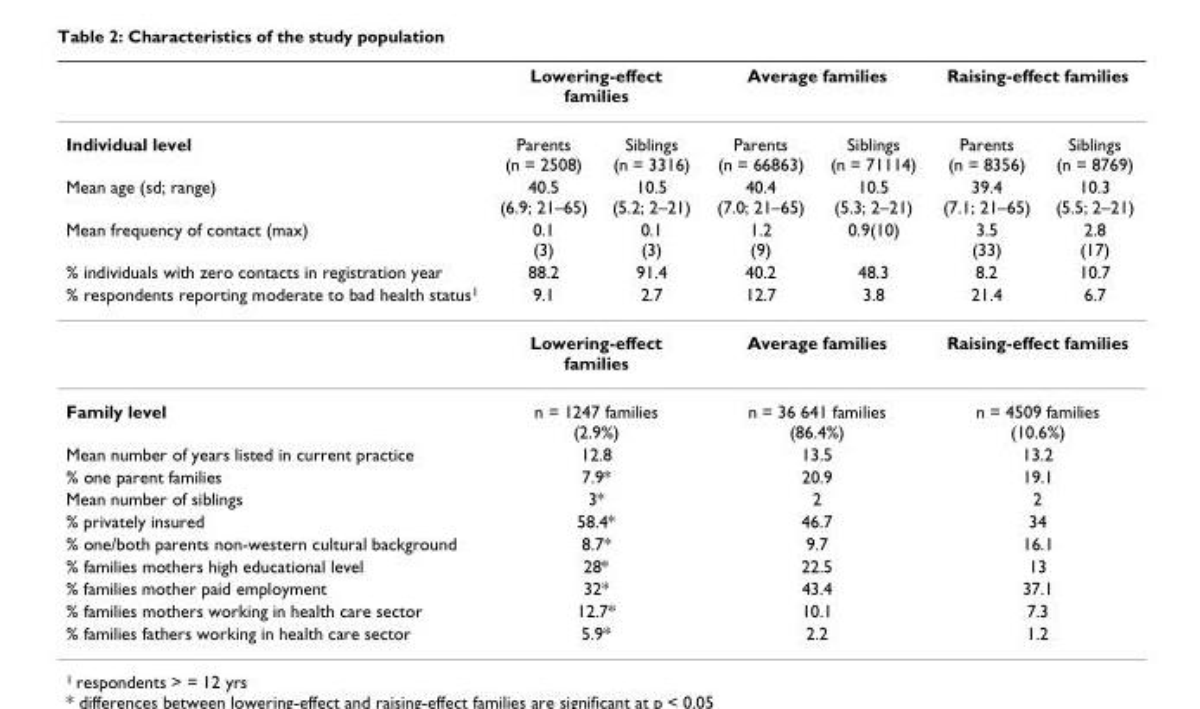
<table><thead><tr><td rowspan="2">Individual level</td><td colspan="2">Lowering-effect families</td><td colspan="2">Average families</td><td colspan="2">Raising-effect families</td></tr><tr><td>Parents (n = 2508)</td><td>Siblings (n = 3316)</td><td>Parents (n = 66863)</td><td>Siblings (n = 71114)</td><td>Parents (n = 8356)</td><td>Siblings (n = 8769)</td></tr></thead><tbody><tr><td>Mean age (sd; range)</td><td>40.5 (6.9; 21–65)</td><td>10.5 (5.2; 2–21)</td><td>40.4 (7.0; 21–65)</td><td>10.5 (5.3; 2–21)</td><td>39.4 (7.1; 21–65)</td><td>10.3 (5.5; 2–21)</td></tr><tr><td>Mean frequency of contact (max)</td><td>0.1 (3)</td><td>0.1 (3)</td><td>1.2 (9)</td><td>0.9(10)</td><td>3.5 (33)</td><td>2.8 (17)</td></tr><tr><td>% individuals with zero contacts in registration year</td><td>88.2</td><td>91.4</td><td>40.2</td><td>48.3</td><td>8.2</td><td>10.7</td></tr><tr><td rowspan="2">% respondents reporting moderate to bad health status<sup>1</sup></td><td>9.1</td><td>2.7</td><td>12.7</td><td>3.8</td><td>21.4</td><td>6.7</td></tr><tr><td colspan="2">Lowering-effect families</td><td colspan="2">Average families</td><td colspan="2">Raising-effect families</td></tr><tr><td>Family level</td><td colspan="2">n = 1247 families (2.9%)</td><td colspan="2">n = 36 641 families (86.4%)</td><td colspan="2">n = 4509 families (10.6%)</td></tr><tr><td>Mean number of years listed in current practice</td><td colspan="2">12.8</td><td colspan="2">13.5</td><td colspan="2">13.2</td></tr><tr><td>% one parent families</td><td colspan="2">7.9*</td><td colspan="2">20.9</td><td colspan="2">19.1</td></tr><tr><td>Mean number of siblings</td><td colspan="2">3*</td><td colspan="2">2</td><td colspan="2">2</td></tr><tr><td>% privately insured</td><td colspan="2">58.4*</td><td colspan="2">46.7</td><td colspan="2">34</td></tr><tr><td>% one/both parents non-western cultural background</td><td colspan="2">8.7*</td><td colspan="2">9.7</td><td colspan="2">16.1</td></tr><tr><td>% families mothers high educational level</td><td colspan="2">28*</td><td colspan="2">22.5</td><td colspan="2">13</td></tr><tr><td>% families mother paid employment</td><td colspan="2">32*</td><td colspan="2">43.4</td><td colspan="2">37.1</td></tr><tr><td>% families mothers working in health care sector</td><td colspan="2">12.7*</td><td colspan="2">10.1</td><td colspan="2">7.3</td></tr><tr><td>% families fathers working in health care sector</td><td colspan="2">5.9*</td><td colspan="2">2.2</td><td colspan="2">1.2</td></tr></tbody></table>